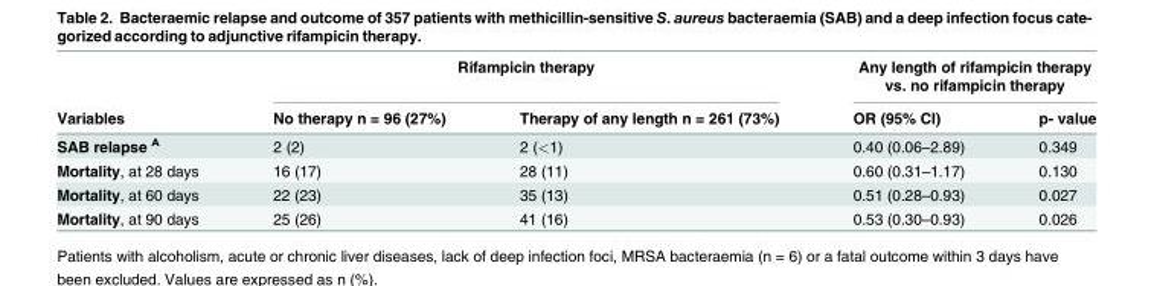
<table><thead><tr><td rowspan="2">Variables</td><td colspan="2">Rifampicin therapy</td><td colspan="2">Any length of rifampicin therapy vs. no rifampicin therapy</td></tr><tr><td>No therapy n = 96 (27%)</td><td>Therapy of any length n = 261 (73%)</td><td>OR (95% CI)</td><td>p- value</td></tr></thead><tbody><tr><td>SAB relapse <sup>A</sup></td><td>2 (2)</td><td>2 (&lt;1)</td><td>0.40 (0.06–2.89)</td><td>0.349</td></tr><tr><td>Mortality, at 28 days</td><td>16 (17)</td><td>28 (11)</td><td>0.60 (0.31–1.17)</td><td>0.130</td></tr><tr><td>Mortality, at 60 days</td><td>22 (23)</td><td>35 (13)</td><td>0.51 (0.28–0.93)</td><td>0.027</td></tr><tr><td>Mortality, at 90 days</td><td>25 (26)</td><td>41 (16)</td><td>0.53 (0.30–0.93)</td><td>0.026</td></tr></tbody></table>